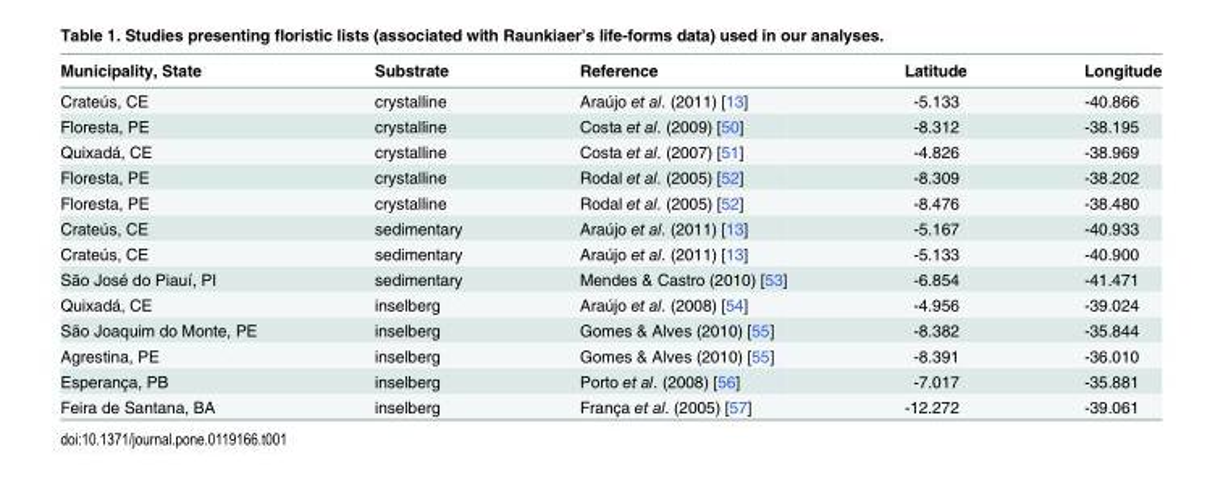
<table><thead><tr><td>Municipality, State</td><td>Substrate</td><td>Reference</td><td>Latitude</td><td>Longitude</td></tr></thead><tbody><tr><td>Crateús, CE</td><td>crystalline</td><td>Araújo et al. (2011) [13]</td><td>-5.133</td><td>-40.866</td></tr><tr><td>Floresta, PE</td><td>crystalline</td><td>Costa et al. (2009) [50]</td><td>-8.312</td><td>-38.195</td></tr><tr><td>Quixadá, CE</td><td>crystalline</td><td>Costa et al. (2007) [51]</td><td>-4.826</td><td>-38.969</td></tr><tr><td>Floresta, PE</td><td>crystalline</td><td>Rodal et al. (2005) [52]</td><td>-8.309</td><td>-38.202</td></tr><tr><td>Floresta, PE</td><td>crystalline</td><td>Rodal et al. (2005) [52]</td><td>-8.476</td><td>-38.480</td></tr><tr><td>Crateús, CE</td><td>sedimentary</td><td>Araújo et al. (2011) [13]</td><td>-5.167</td><td>-40.933</td></tr><tr><td>Crateús, CE</td><td>sedimentary</td><td>Araújo et al. (2011) [13]</td><td>-5.133</td><td>-40.900</td></tr><tr><td>São José do Piauí, PI</td><td>sedimentary</td><td>Mendes &amp; Castro (2010) [53]</td><td>-6.854</td><td>-41.471</td></tr><tr><td>Quixadá, CE</td><td>inselberg</td><td>Araújo et al. (2008) [54]</td><td>-4.956</td><td>-39.024</td></tr><tr><td>São Joaquim do Monte, PE</td><td>inselberg</td><td>Gomes &amp; Alves (2010) [55]</td><td>-8.382</td><td>-35.844</td></tr><tr><td>Agrestina, PE</td><td>inselberg</td><td>Gomes &amp; Alves (2010) [55]</td><td>-8.391</td><td>-36.010</td></tr><tr><td>Esperança, PB</td><td>inselberg</td><td>Porto et al. (2008) [56]</td><td>-7.017</td><td>-35.881</td></tr><tr><td>Feira de Santana, BA</td><td>inselberg</td><td>França et al. (2005) [57]</td><td>-12.272</td><td>-39.061</td></tr></tbody></table>